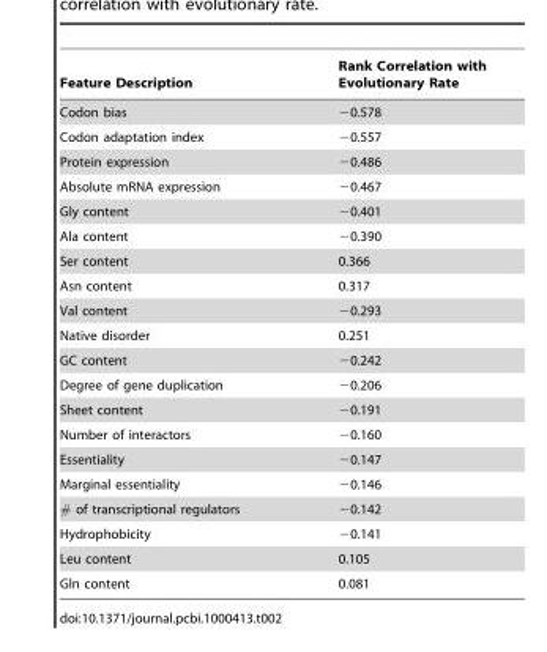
<table><thead><tr><td>Feature Description</td><td>Rank Correlation with Evolutionary Rate</td></tr></thead><tbody><tr><td>Codon bias</td><td>−0.578</td></tr><tr><td>Codon adaptation index</td><td>−0.557</td></tr><tr><td>Protein expression</td><td>−0.486</td></tr><tr><td>Absolute mRNA expression</td><td>−0.467</td></tr><tr><td>Gly content</td><td>−0.401</td></tr><tr><td>Ala content</td><td>−0.390</td></tr><tr><td>Ser content</td><td>0.366</td></tr><tr><td>Asn content</td><td>0.317</td></tr><tr><td>Val content</td><td>−0.293</td></tr><tr><td>Native disorder</td><td>0.251</td></tr><tr><td>GC content</td><td>−0.242</td></tr><tr><td>Degree of gene duplication</td><td>−0.206</td></tr><tr><td>Sheet content</td><td>−0.191</td></tr><tr><td>Number of interactors</td><td>−0.160</td></tr><tr><td>Essentiality</td><td>−0.147</td></tr><tr><td>Marginal essentiality</td><td>−0.146</td></tr><tr><td># of transcriptional regulators</td><td>−0.142</td></tr><tr><td>Hydrophobicity</td><td>−0.141</td></tr><tr><td>Leu content</td><td>0.105</td></tr><tr><td>Gln content</td><td>0.081</td></tr></tbody></table>